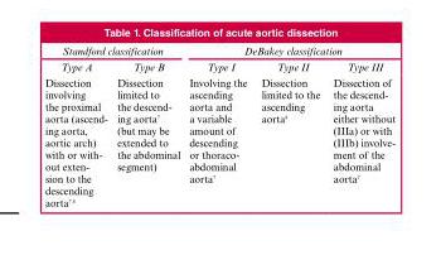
<table><thead><tr><td colspan="2">Standford classification</td><td colspan="3">DeBakey classification</td></tr><tr><td>Type A</td><td>Type B</td><td>Type I</td><td>Type II</td><td>Type III</td></tr></thead><tbody><tr><td>Dissection involving the proximal aorta (ascend- ing aorta, aortic arch) with or with- out exten- sion to the descending aorta7,8</td><td>Dissection limited to the descend- ing aorta7 (but may be extended to the abdominal segment)</td><td>Involving the ascending aorta and a variable amount of descending or thoraco- abdominal aorta7</td><td>Dissection limited to the ascending aorta<sup>8</sup></td><td>Dissection of the descend- ing aorta either without (IIIa) or with (IIIb) involve- ment of the abdominal aorta7</td></tr></tbody></table>